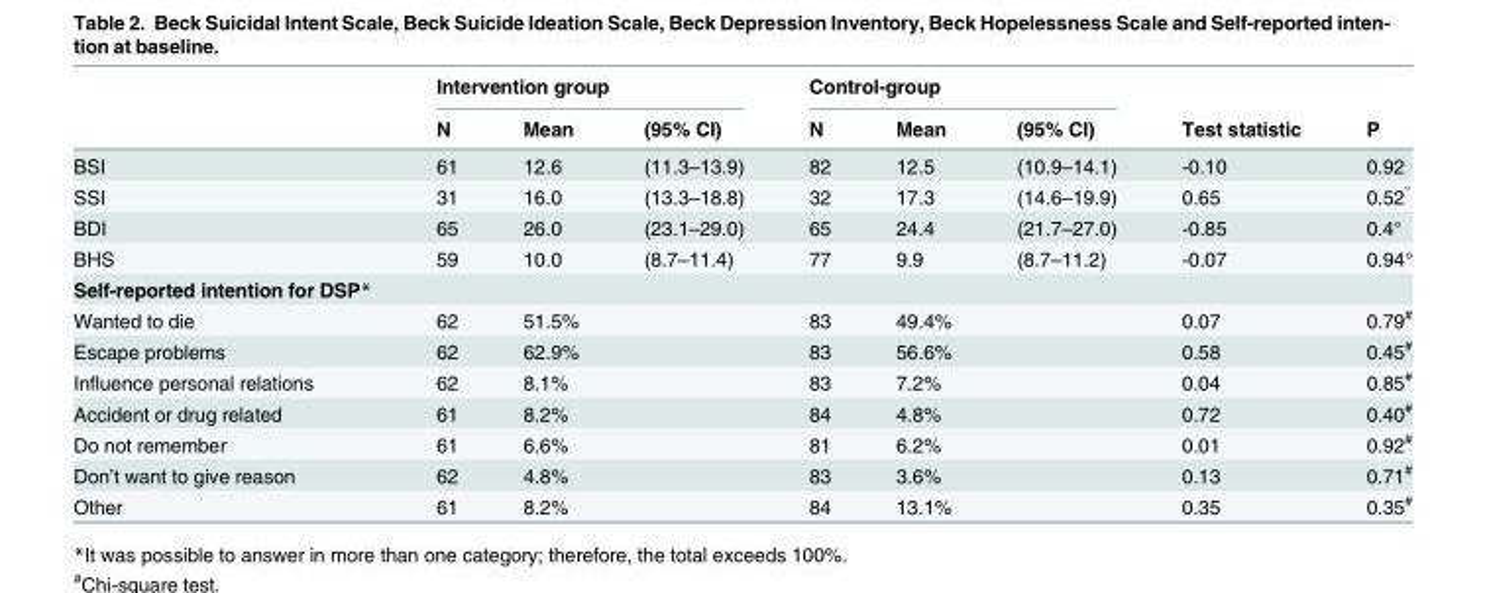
<table><thead><tr><td rowspan="2"></td><td colspan="3">Intervention group</td><td colspan="3">Control-group</td><td rowspan="2">Test statistic</td><td rowspan="2">P</td></tr><tr><td>N</td><td>Mean</td><td>(95% CI)</td><td>N</td><td>Mean</td><td>(95% CI)</td></tr></thead><tbody><tr><td>BSI</td><td>61</td><td>12.6</td><td>(11.3–13.9)</td><td>82</td><td>12.5</td><td>(10.9–14.1)</td><td>-0.10</td><td>0.92</td></tr><tr><td>SSI</td><td>31</td><td>16.0</td><td>(13.3–18.8)</td><td>32</td><td>17.3</td><td>(14.6–19.9)</td><td>0.65</td><td>0.52<sup>°</sup></td></tr><tr><td>BDI</td><td>65</td><td>26.0</td><td>(23.1–29.0)</td><td>65</td><td>24.4</td><td>(21.7–27.0)</td><td>-0.85</td><td>0.4°</td></tr><tr><td>BHS</td><td>59</td><td>10.0</td><td>(8.7–11.4)</td><td>77</td><td>9.9</td><td>(8.7–11.2)</td><td>-0.07</td><td>0.94°</td></tr><tr><td colspan="9">Self-reported intention for DSP*</td></tr><tr><td>Wanted to die</td><td>62</td><td>51.5%</td><td></td><td>83</td><td>49.4%</td><td></td><td>0.07</td><td>0.79<sup>#</sup></td></tr><tr><td>Escape problems</td><td>62</td><td>62.9%</td><td></td><td>83</td><td>56.6%</td><td></td><td>0.58</td><td>0.45<sup>#</sup></td></tr><tr><td>Influence personal relations</td><td>62</td><td>8.1%</td><td></td><td>83</td><td>7.2%</td><td></td><td>0.04</td><td>0.85<sup>#</sup></td></tr><tr><td>Accident or drug related</td><td>61</td><td>8.2%</td><td></td><td>84</td><td>4.8%</td><td></td><td>0.72</td><td>0.40<sup>#</sup></td></tr><tr><td>Do not remember</td><td>61</td><td>6.6%</td><td></td><td>81</td><td>6.2%</td><td></td><td>0.01</td><td>0.92<sup>#</sup></td></tr><tr><td>Don’t want to give reason</td><td>62</td><td>4.8%</td><td></td><td>83</td><td>3.6%</td><td></td><td>0.13</td><td>0.71<sup>#</sup></td></tr><tr><td>Other</td><td>61</td><td>8.2%</td><td></td><td>84</td><td>13.1%</td><td></td><td>0.35</td><td>0.35<sup>#</sup></td></tr></tbody></table>